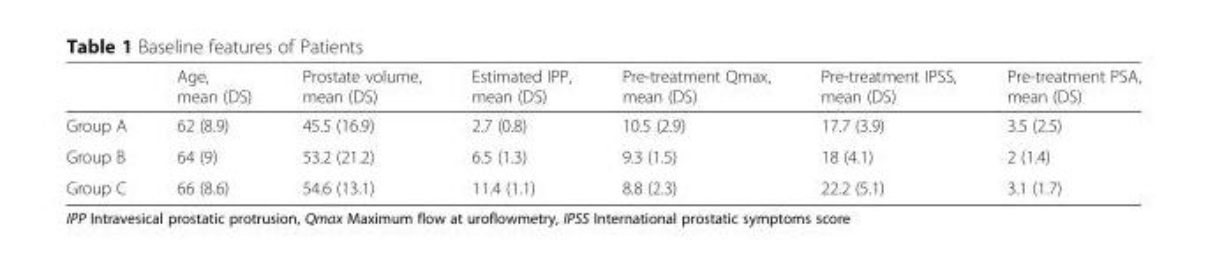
<table><thead><tr><td></td><td>Age, mean (DS)</td><td>Prostate volume, mean (DS)</td><td>Estimated IPP, mean (DS)</td><td>Pre-treatment Qmax, mean (DS)</td><td>Pre-treatment IPSS, mean (DS)</td><td>Pre-treatment PSA, mean (DS)</td></tr></thead><tbody><tr><td>Group A</td><td>62 (8.9)</td><td>45.5 (16.9)</td><td>2.7 (0.8)</td><td>10.5 (2.9)</td><td>17.7 (3.9)</td><td>3.5 (2.5)</td></tr><tr><td>Group B</td><td>64 (9)</td><td>53.2 (21.2)</td><td>6.5 (1.3)</td><td>9.3 (1.5)</td><td>18 (4.1)</td><td>2 (1.4)</td></tr><tr><td>Group C</td><td>66 (8.6)</td><td>54.6 (13.1)</td><td>11.4 (1.1)</td><td>8.8 (2.3)</td><td>22.2 (5.1)</td><td>3.1 (1.7)</td></tr></tbody></table>